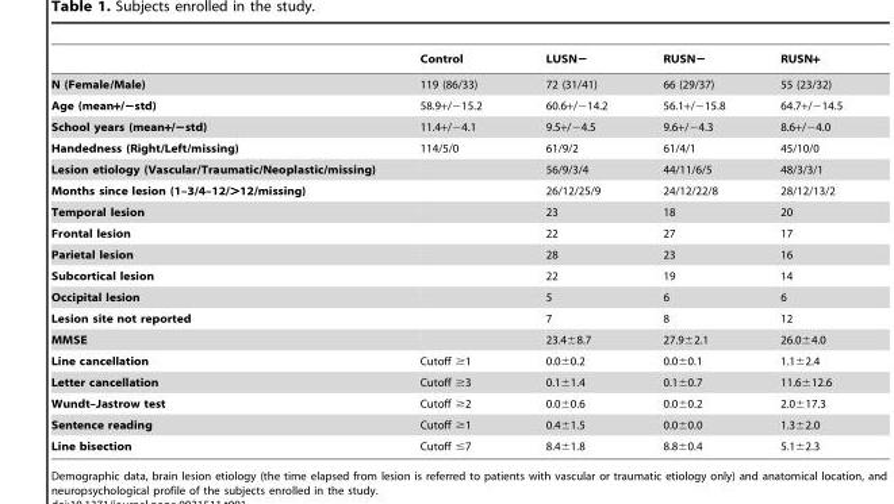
<table><thead><tr><td></td><td>Control</td><td>LUSN−</td><td>RUSN−</td><td>RUSN+</td></tr></thead><tbody><tr><td>N (Female/Male)</td><td>119 (86/33)</td><td>72 (31/41)</td><td>66 (29/37)</td><td>55 (23/32)</td></tr><tr><td>Age (mean+/−std)</td><td>58.9+/−15.2</td><td>60.6+/−14.2</td><td>56.1+/−15.8</td><td>64.7+/−14.5</td></tr><tr><td>School years (mean+/−std)</td><td>11.4+/−4.1</td><td>9.5+/−4.5</td><td>9.6+/−4.3</td><td>8.6+/−4.0</td></tr><tr><td>Handedness (Right/Left/missing)</td><td>114/5/0</td><td>61/9/2</td><td>61/4/1</td><td>45/10/0</td></tr><tr><td>Lesion etiology (Vascular/Traumatic/Neoplastic/missing)</td><td></td><td>56/9/3/4</td><td>44/11/6/5</td><td>48/3/3/1</td></tr><tr><td>Months since lesion (1–3/4–12/&gt;12/missing)</td><td></td><td>26/12/25/9</td><td>24/12/22/8</td><td>28/12/13/2</td></tr><tr><td>Temporal lesion</td><td></td><td>23</td><td>18</td><td>20</td></tr><tr><td>Frontal lesion</td><td></td><td>22</td><td>27</td><td>17</td></tr><tr><td>Parietal lesion</td><td></td><td>28</td><td>23</td><td>16</td></tr><tr><td>Subcortical lesion</td><td></td><td>22</td><td>19</td><td>14</td></tr><tr><td>Occipital lesion</td><td></td><td>5</td><td>6</td><td>6</td></tr><tr><td>Lesion site not reported</td><td></td><td>7</td><td>8</td><td>12</td></tr><tr><td>MMSE</td><td></td><td>23.4±8.7</td><td>27.9±2.1</td><td>26.0±4.0</td></tr><tr><td>Line cancellation</td><td>Cutoff ≥1</td><td>0.0±0.2</td><td>0.0±0.1</td><td>1.1±2.4</td></tr><tr><td>Letter cancellation</td><td>Cutoff ≥3</td><td>0.1±1.4</td><td>0.1±0.7</td><td>11.6±12.6</td></tr><tr><td>Wundt–Jastrow test</td><td>Cutoff ≥2</td><td>0.0±0.6</td><td>0.0±0.2</td><td>2.0±17.3</td></tr><tr><td>Sentence reading</td><td>Cutoff ≥1</td><td>0.4±1.5</td><td>0.0±0.0</td><td>1.3±2.0</td></tr><tr><td>Line bisection</td><td>Cutoff ≤7</td><td>8.4±1.8</td><td>8.8±0.4</td><td>5.1±2.3</td></tr></tbody></table>